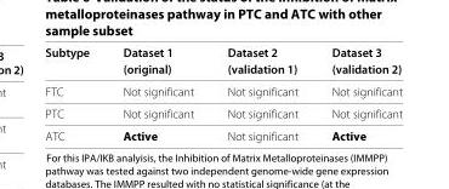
<table><thead><tr><td rowspan="2">Subtype</td><td rowspan="2">Dataset 1 (original)</td><td rowspan="2">Dataset 2 (validation 1)</td><td rowspan="2">Dataset 3 (validation 2)</td></tr><tr></tr></thead><tbody><tr><td>FTC</td><td>Not significant</td><td>Not significant</td><td>Not significant</td></tr><tr><td>PTC</td><td>Not significant</td><td>Not significant</td><td>Not significant</td></tr><tr><td>ATC</td><td>Active</td><td>Not significant</td><td>Active</td></tr></tbody></table>